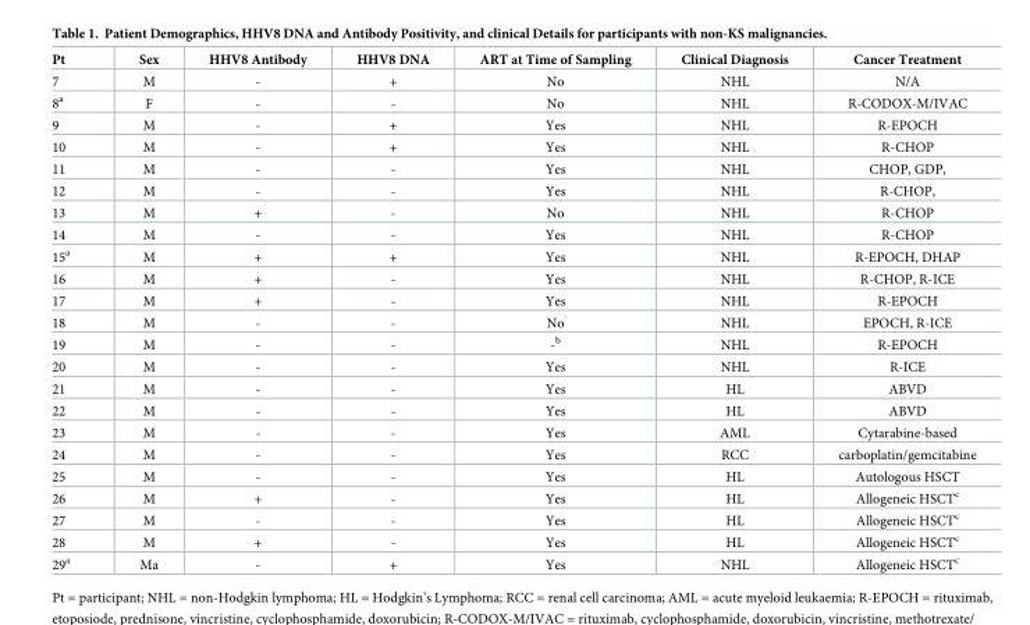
<table><thead><tr><td>Pt</td><td>Sex</td><td>HHV8 Antibody</td><td>HHV8 DNA</td><td>ART at Time of Sampling</td><td>Clinical Diagnosis</td><td>Cancer Treatment</td></tr></thead><tbody><tr><td>7</td><td>M</td><td>-</td><td>+</td><td>No</td><td>NHL</td><td>N/A</td></tr><tr><td>8<sup>a</sup></td><td>F</td><td>-</td><td>-</td><td>No</td><td>NHL</td><td>R-CODOX-M/IVAC</td></tr><tr><td>9</td><td>M</td><td>-</td><td>+</td><td>Yes</td><td>NHL</td><td>R-EPOCH</td></tr><tr><td>10</td><td>M</td><td>-</td><td>+</td><td>Yes</td><td>NHL</td><td>R-CHOP</td></tr><tr><td>11</td><td>M</td><td>-</td><td>-</td><td>Yes</td><td>NHL</td><td>CHOP, GDP,</td></tr><tr><td>12</td><td>M</td><td>-</td><td>-</td><td>Yes</td><td>NHL</td><td>R-CHOP,</td></tr><tr><td>13</td><td>M</td><td>+</td><td>-</td><td>No</td><td>NHL</td><td>R-CHOP</td></tr><tr><td>14</td><td>M</td><td>-</td><td>-</td><td>Yes</td><td>NHL</td><td>R-CHOP</td></tr><tr><td>15<sup>a</sup></td><td>M</td><td>+</td><td>+</td><td>Yes</td><td>NHL</td><td>R-EPOCH, DHAP</td></tr><tr><td>16</td><td>M</td><td>+</td><td>-</td><td>Yes</td><td>NHL</td><td>R-CHOP, R-ICE</td></tr><tr><td>17</td><td>M</td><td>+</td><td>-</td><td>Yes</td><td>NHL</td><td>R-EPOCH</td></tr><tr><td>18</td><td>M</td><td>-</td><td>-</td><td>No</td><td>NHL</td><td>EPOCH, R-ICE</td></tr><tr><td>19</td><td>M</td><td>-</td><td>-</td><td>-<sup>b</sup></td><td>NHL</td><td>R-EPOCH</td></tr><tr><td>20</td><td>M</td><td>-</td><td>-</td><td>Yes</td><td>NHL</td><td>R-ICE</td></tr><tr><td>21</td><td>M</td><td>-</td><td>-</td><td>Yes</td><td>HL</td><td>ABVD</td></tr><tr><td>22</td><td>M</td><td>-</td><td>-</td><td>Yes</td><td>HL</td><td>ABVD</td></tr><tr><td>23</td><td>M</td><td>-</td><td>-</td><td>Yes</td><td>AML</td><td>Cytarabine-based</td></tr><tr><td>24</td><td>M</td><td>-</td><td>-</td><td>Yes</td><td>RCC</td><td>carboplatin/gemcitabine</td></tr><tr><td>25</td><td>M</td><td>-</td><td>-</td><td>Yes</td><td>HL</td><td>Autologous HSCT</td></tr><tr><td>26</td><td>M</td><td>+</td><td>-</td><td>Yes</td><td>HL</td><td>Allogeneic HSCT<sup>c</sup></td></tr><tr><td>27</td><td>M</td><td>-</td><td>-</td><td>Yes</td><td>HL</td><td>Allogeneic HSCT<sup>c</sup></td></tr><tr><td>28</td><td>M</td><td>+</td><td>-</td><td>Yes</td><td>HL</td><td>Allogeneic HSCT<sup>c</sup></td></tr><tr><td>29<sup>a</sup></td><td>Ma</td><td>-</td><td>+</td><td>Yes</td><td>NHL</td><td>Allogeneic HSCT<sup>c</sup></td></tr></tbody></table>